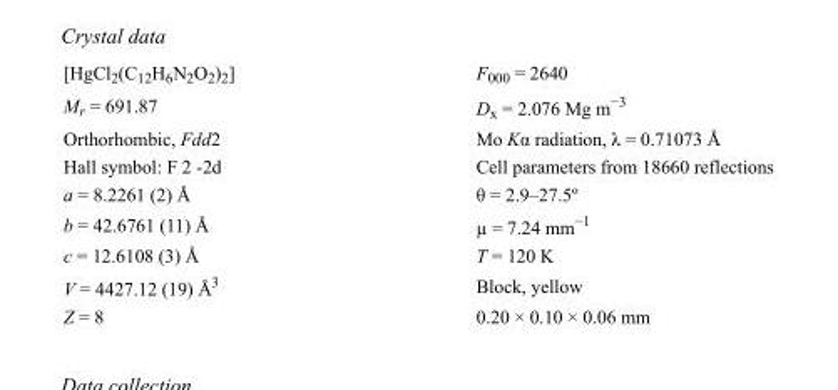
<table><tbody><tr><td>[HgCl<sub>2</sub>(C<sub>12</sub>H<sub>6</sub>N<sub>2</sub>O<sub>2</sub>)<sub>2</sub>]</td><td>F000 = 2640</td></tr><tr><td>M<sub>r</sub> = 691.87</td><td>D<sub>x</sub> = 2.076 Mg m<sup>−3</sup></td></tr><tr><td>Orthorhombic, Fdd2</td><td>Mo Kα radiation, λ = 0.71073 Å</td></tr><tr><td>Hall symbol: F 2 -2d</td><td>Cell parameters from 18660 reflections</td></tr><tr><td>a = 8.2261 (2) Å</td><td>θ = 2.9–27.5º</td></tr><tr><td>b = 42.6761 (11) Å</td><td>µ = 7.24 mm<sup>−1</sup></td></tr><tr><td>c = 12.6108 (3) Å</td><td>T = 120 K</td></tr><tr><td>V = 4427.12 (19) Å<sup>3</sup></td><td>Block, yellow</td></tr><tr><td>Z = 8</td><td>0.20 × 0.10 × 0.06 mm</td></tr></tbody></table>